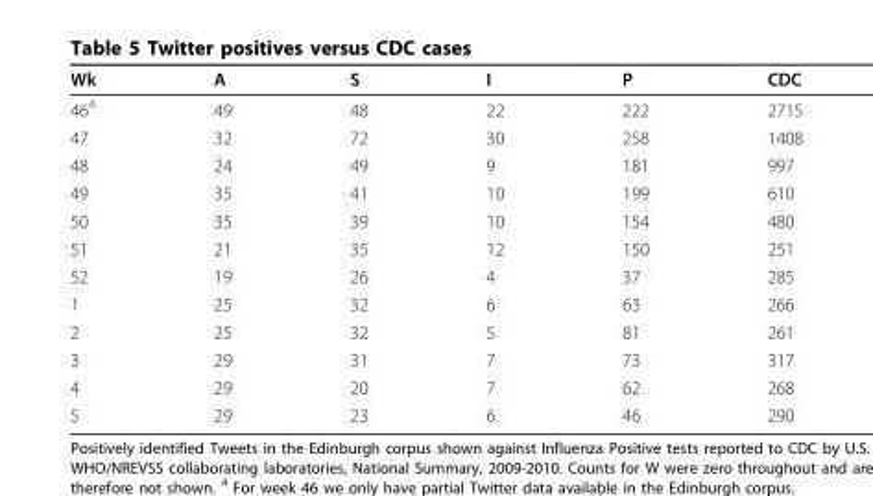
<table><thead><tr><td>Wk</td><td>A</td><td>S</td><td>I</td><td>P</td><td>CDC</td></tr></thead><tbody><tr><td>46<sup>A</sup></td><td>49</td><td>48</td><td>22</td><td>222</td><td>2715</td></tr><tr><td>47</td><td>32</td><td>72</td><td>30</td><td>258</td><td>1408</td></tr><tr><td>48</td><td>24</td><td>49</td><td>9</td><td>181</td><td>997</td></tr><tr><td>49</td><td>35</td><td>41</td><td>10</td><td>199</td><td>610</td></tr><tr><td>50</td><td>35</td><td>39</td><td>10</td><td>154</td><td>480</td></tr><tr><td>51</td><td>21</td><td>35</td><td>12</td><td>150</td><td>251</td></tr><tr><td>52</td><td>19</td><td>26</td><td>4</td><td>37</td><td>285</td></tr><tr><td>1</td><td>25</td><td>32</td><td>6</td><td>63</td><td>266</td></tr><tr><td>2</td><td>25</td><td>32</td><td>5</td><td>81</td><td>261</td></tr><tr><td>3</td><td>29</td><td>31</td><td>7</td><td>73</td><td>317</td></tr><tr><td>4</td><td>29</td><td>20</td><td>7</td><td>62</td><td>268</td></tr><tr><td>5</td><td>29</td><td>23</td><td>6</td><td>46</td><td>290</td></tr></tbody></table>